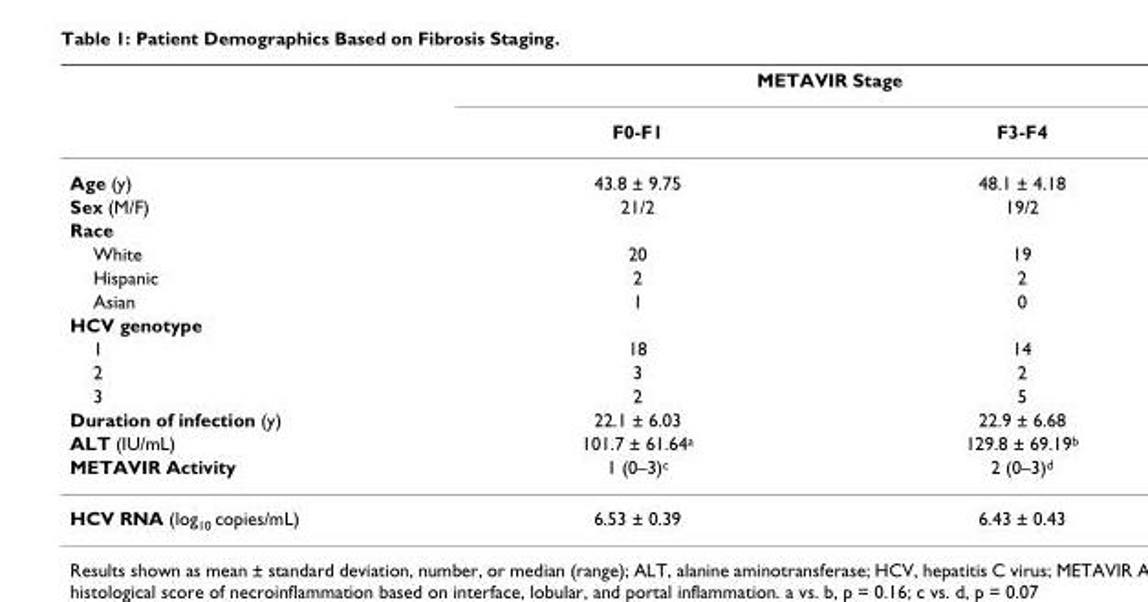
<table><thead><tr><td rowspan="2"></td><td colspan="2">METAVIR Stage</td></tr><tr><td>F0-F1</td><td>F3-F4</td></tr></thead><tbody><tr><td>Age (y)</td><td>43.8 ± 9.75</td><td>48.1 ± 4.18</td></tr><tr><td>Sex (M/F)</td><td>21/2</td><td>19/2</td></tr><tr><td colspan="3">Race</td></tr><tr><td>White</td><td>20</td><td>19</td></tr><tr><td>Hispanic</td><td>2</td><td>2</td></tr><tr><td>Asian</td><td>1</td><td>0</td></tr><tr><td colspan="3">HCV genotype</td></tr><tr><td>1</td><td>18</td><td>14</td></tr><tr><td>2</td><td>3</td><td>2</td></tr><tr><td>3</td><td>2</td><td>5</td></tr><tr><td>Duration of infection (y)</td><td>22.1 ± 6.03</td><td>22.9 ± 6.68</td></tr><tr><td>ALT (IU/mL)</td><td>101.7 ± 61.64<sup>a</sup></td><td>129.8 ± 69.19<sup>b</sup></td></tr><tr><td>METAVIR Activity</td><td>1 (0–3)<sup>c</sup></td><td>2 (0–3)<sup>d</sup></td></tr><tr><td>HCV RNA (log<sub>10</sub> copies/mL)</td><td>6.53 ± 0.39</td><td>6.43 ± 0.43</td></tr></tbody></table>